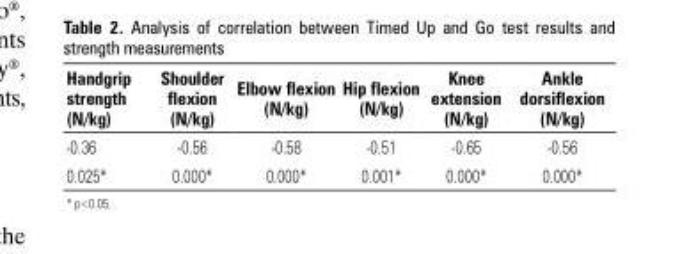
<table><thead><tr><td>Handgrip strength (N/kg)</td><td>Shoulder flexion (N/kg)</td><td>Elbow flexion (N/kg)</td><td>Hip flexion (N/kg)</td><td>Knee extension (N/kg)</td><td>Ankle dorsiflexion (N/kg)</td></tr></thead><tbody><tr><td>-0.36</td><td>-0.56</td><td>-0.58</td><td>-0.51</td><td>-0.65</td><td>-0.56</td></tr><tr><td>0.025*</td><td>0.000*</td><td>0.000*</td><td>0.001*</td><td>0.000*</td><td>0.000*</td></tr></tbody></table>